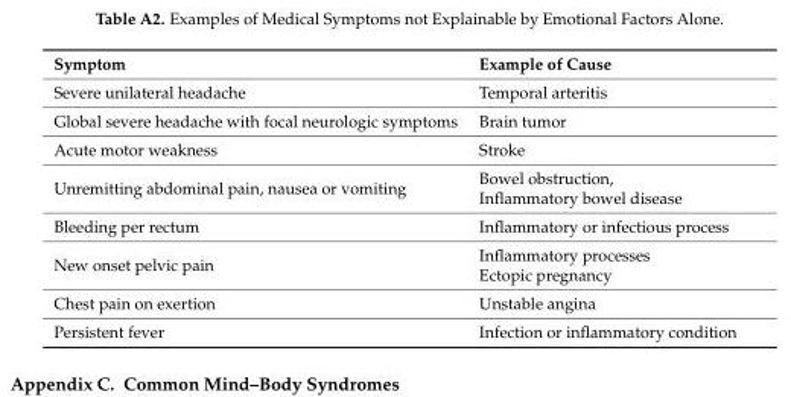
<table><thead><tr><td>Symptom</td><td>Example of Cause</td></tr></thead><tbody><tr><td>Severe unilateral headache</td><td>Temporal arteritis</td></tr><tr><td>Global severe headache with focal neurologic symptoms</td><td>Brain tumor</td></tr><tr><td>Acute motor weakness</td><td>Stroke</td></tr><tr><td>Unremitting abdominal pain, nausea or vomiting</td><td>Bowel obstruction, Inflammatory bowel disease</td></tr><tr><td>Bleeding per rectum</td><td>Inflammatory or infectious process</td></tr><tr><td>New onset pelvic pain</td><td>Inflammatory processes Ectopic pregnancy</td></tr><tr><td>Chest pain on exertion</td><td>Unstable angina</td></tr><tr><td>Persistent fever</td><td>Infection or inflammatory condition</td></tr></tbody></table>